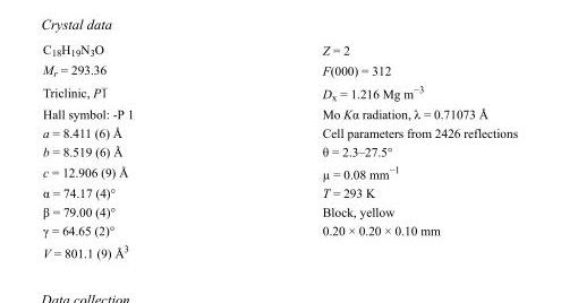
<table><tbody><tr><td>C<sub>18</sub>H<sub>19</sub>N<sub>3</sub>O</td><td>Z = 2</td></tr><tr><td>M<sub>r</sub> = 293.36</td><td>F(000) = 312</td></tr><tr><td>Triclinic, P1</td><td>D<sub>x</sub> = 1.216 Mg m<sup>−3</sup></td></tr><tr><td>Hall symbol: -P 1</td><td>Mo Kα radiation, λ = 0.71073 Å</td></tr><tr><td>a = 8.411 (6) Å</td><td>Cell parameters from 2426 reflections</td></tr><tr><td>b = 8.519 (6) Å</td><td>θ = 2.3–27.5°</td></tr><tr><td>c = 12.906 (9) Å</td><td>µ = 0.08 mm<sup>−1</sup></td></tr><tr><td>α = 74.17 (4)°</td><td>T = 293 K</td></tr><tr><td>β = 79.00 (4)°</td><td>Block, yellow</td></tr><tr><td>γ = 64.65 (2)°</td><td>0.20 × 0.20 × 0.10 mm</td></tr><tr><td>V = 801.1 (9) Å<sup>3</sup></td><td></td></tr></tbody></table>